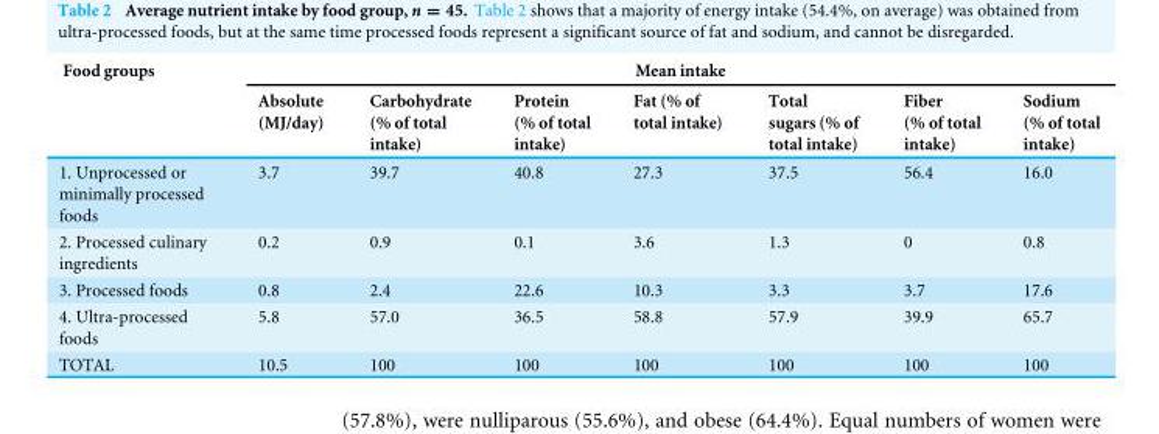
<table><thead><tr><td rowspan="2">Food groups</td><td colspan="7">Mean intake</td></tr><tr><td>Absolute (MJ/day)</td><td>Carbohydrate (% of total intake)</td><td>Protein (% of total intake)</td><td>Fat (% of total intake)</td><td>Total sugars (% of total intake)</td><td>Fiber (% of total intake)</td><td>Sodium (% of total intake)</td></tr></thead><tbody><tr><td>1. Unprocessed or minimally processed foods</td><td>3.7</td><td>39.7</td><td>40.8</td><td>27.3</td><td>37.5</td><td>56.4</td><td>16.0</td></tr><tr><td>2. Processed culinary ingredients</td><td>0.2</td><td>0.9</td><td>0.1</td><td>3.6</td><td>1.3</td><td>0</td><td>0.8</td></tr><tr><td>3. Processed foods</td><td>0.8</td><td>2.4</td><td>22.6</td><td>10.3</td><td>3.3</td><td>3.7</td><td>17.6</td></tr><tr><td>4. Ultra-processed foods</td><td>5.8</td><td>57.0</td><td>36.5</td><td>58.8</td><td>57.9</td><td>39.9</td><td>65.7</td></tr><tr><td>TOTAL</td><td>10.5</td><td>100</td><td>100</td><td>100</td><td>100</td><td>100</td><td>100</td></tr></tbody></table>